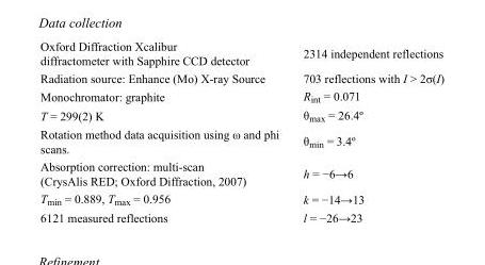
<table><tbody><tr><td>Oxford Diffraction Xcalibur diffractometer with Sapphire CCD detector</td><td>2314 independent reflections</td></tr><tr><td>Radiation source: Enhance (Mo) X-ray Source</td><td>703 reflections with I &gt; 2σ(I)</td></tr><tr><td>Monochromator: graphite</td><td>R<sub>int</sub> = 0.071</td></tr><tr><td>T = 299(2) K</td><td>θ<sub>max</sub> = 26.4º</td></tr><tr><td>Rotation method data acquisition using ω and phi scans.</td><td>θ<sub>min</sub> = 3.4º</td></tr><tr><td>Absorption correction: multi-scan (CrysAlis RED; Oxford Diffraction, 2007)</td><td>h = −6→6</td></tr><tr><td>T<sub>min</sub> = 0.889, T<sub>max</sub> = 0.956</td><td>k = −14→13</td></tr><tr><td>6121 measured reflections</td><td>l = −26→23</td></tr></tbody></table>